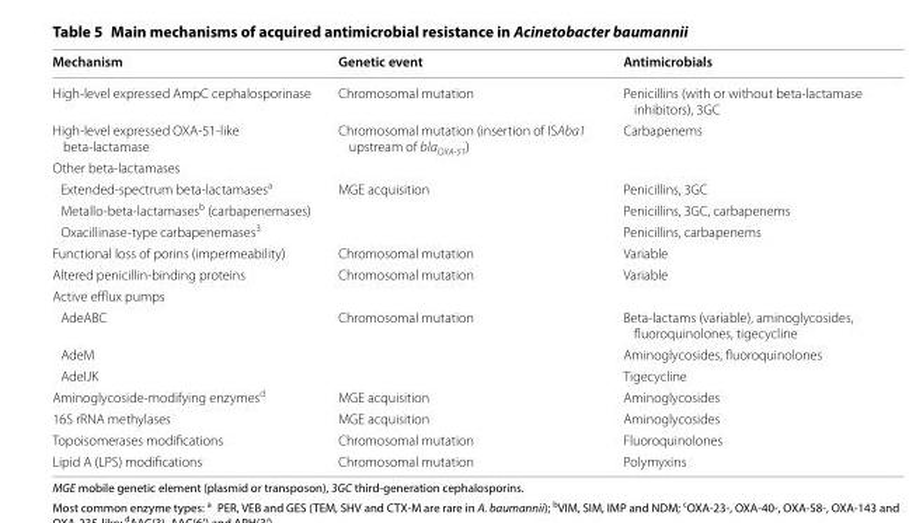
<table><thead><tr><td>Mechanism</td><td>Genetic event</td><td>Antimicrobials</td></tr></thead><tbody><tr><td>High‑level expressed AmpC cephalosporinase</td><td>Chromosomal mutation</td><td>Penicillins (with or without beta‑lactamase inhibitors), 3GC</td></tr><tr><td>High‑level expressed OXA‑51‑like beta‑lactamase</td><td>Chromosomal mutation (insertion of ISAba1 upstream of bla<sub>OXA‑51</sub>)</td><td>Carbapenems</td></tr><tr><td colspan="3">Other beta‑lactamases</td></tr><tr><td>Extended‑spectrum beta‑lactamases<sup>a</sup></td><td>MGE acquisition</td><td>Penicillins, 3GC</td></tr><tr><td>Metallo‑beta‑lactamases<sup>b</sup> (carbapenemases)</td><td></td><td>Penicillins, 3GC, carbapenems</td></tr><tr><td>Oxacillinase‑type carbapenemases<sup>3</sup></td><td></td><td>Penicillins, carbapenems</td></tr><tr><td>Functional loss of porins (impermeability)</td><td>Chromosomal mutation</td><td>Variable</td></tr><tr><td>Altered penicillin‑binding proteins</td><td>Chromosomal mutation</td><td>Variable</td></tr><tr><td colspan="3">Active efflux pumps</td></tr><tr><td>AdeABC</td><td>Chromosomal mutation</td><td>Beta‑lactams (variable), aminoglycosides, fluoroquinolones, tigecycline</td></tr><tr><td>AdeM</td><td></td><td>Aminoglycosides, fluoroquinolones</td></tr><tr><td>AdeIJK</td><td></td><td>Tigecycline</td></tr><tr><td>Aminoglycoside‑modifying enzymes<sup>d</sup></td><td>MGE acquisition</td><td>Aminoglycosides</td></tr><tr><td>16S rRNA methylases</td><td>MGE acquisition</td><td>Aminoglycosides</td></tr><tr><td>Topoisomerases modifications</td><td>Chromosomal mutation</td><td>Fluoroquinolones</td></tr><tr><td>Lipid A (LPS) modifications</td><td>Chromosomal mutation</td><td>Polymyxins</td></tr></tbody></table>